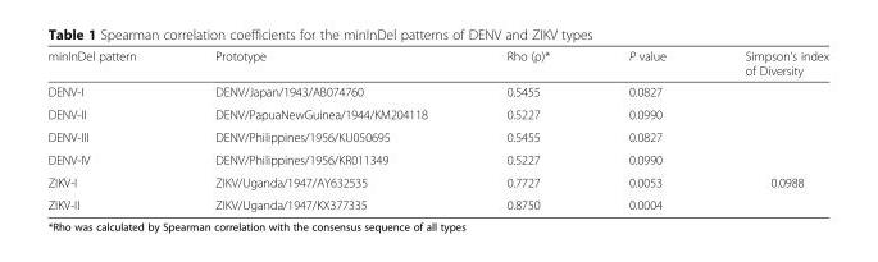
<table><thead><tr><td>minInDel pattern</td><td>Prototype</td><td>Rho (ρ)*</td><td>P value</td><td>Simpson’s index of Diversity</td></tr></thead><tbody><tr><td>DENV-I</td><td>DENV/Japan/1943/AB074760</td><td>0.5455</td><td>0.0827</td><td rowspan="4"></td></tr><tr><td>DENV-II</td><td>DENV/PapuaNewGuinea/1944/KM204118</td><td>0.5227</td><td>0.0990</td></tr><tr><td>DENV-III</td><td>DENV/Philippines/1956/KU050695</td><td>0.5455</td><td>0.0827</td></tr><tr><td>DENV-IV</td><td>DENV/Philippines/1956/KR011349</td><td>0.5227</td><td>0.0990</td></tr><tr><td>ZIKV-I</td><td>ZIKV/Uganda/1947/AY632535</td><td>0.7727</td><td>0.0053</td><td rowspan="2">0.0988</td></tr><tr><td>ZIKV-II</td><td>ZIKV/Uganda/1947/KX377335</td><td>0.8750</td><td>0.0004</td></tr></tbody></table>